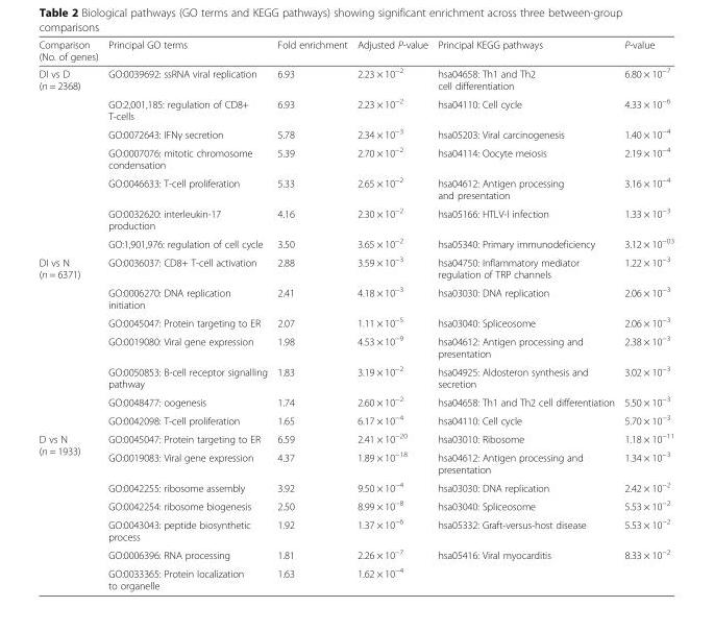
<table><thead><tr><td>Comparison (No. of genes)</td><td>Principal GO terms</td><td>Fold enrichment</td><td>Adjusted P-value</td><td>Principal KEGG pathways</td><td>P-value</td></tr></thead><tbody><tr><td rowspan="7">DI vs D (n = 2368)</td><td>GO:0039692: ssRNA viral replication</td><td>6.93</td><td>2.23 × 10<sup>−2</sup></td><td>hsa04658: Th1 and Th2 cell differentiation</td><td>6.80 × 10<sup>−7</sup></td></tr><tr><td>GO:2,001,185: regulation of CD8+ T-cells</td><td>6.93</td><td>2.23 × 10<sup>−2</sup></td><td>hsa04110: Cell cycle</td><td>4.33 × 10<sup>−6</sup></td></tr><tr><td>GO:0072643: IFNγ secretion</td><td>5.78</td><td>2.34 × 10<sup>−3</sup></td><td>hsa05203: Viral carcinogenesis</td><td>1.40 × 10<sup>−4</sup></td></tr><tr><td>GO:0007076: mitotic chromosome condensation</td><td>5.39</td><td>2.70 × 10<sup>−2</sup></td><td>hsa04114: Oocyte meiosis</td><td>2.19 × 10<sup>−4</sup></td></tr><tr><td>GO:0046633: T-cell proliferation</td><td>5.33</td><td>2.65 × 10<sup>−2</sup></td><td>hsa04612: Antigen processing and presentation</td><td>3.16 × 10<sup>−4</sup></td></tr><tr><td>GO:0032620: interleukin-17 production</td><td>4.16</td><td>2.30 × 10<sup>−2</sup></td><td>hsa05166: HTLV-I infection</td><td>1.33 × 10<sup>−3</sup></td></tr><tr><td>GO:1,901,976: regulation of cell cycle</td><td>3.50</td><td>3.65 × 10<sup>−2</sup></td><td>hsa05340: Primary immunodeficiency</td><td>3.12 × 10<sup>−03</sup></td></tr><tr><td rowspan="7">DI vs N (n = 6371)</td><td>GO:0036037: CD8+ T-cell activation</td><td>2.88</td><td>3.59 × 10<sup>−3</sup></td><td>hsa04750: Inflammatory mediator regulation of TRP channels</td><td>1.22 × 10<sup>−3</sup></td></tr><tr><td>GO:0006270: DNA replication initiation</td><td>2.41</td><td>4.18 × 10<sup>−3</sup></td><td>hsa03030: DNA replication</td><td>2.06 × 10<sup>−3</sup></td></tr><tr><td>GO:0045047: Protein targeting to ER</td><td>2.07</td><td>1.11 × 10<sup>−5</sup></td><td>hsa03040: Spliceosome</td><td>2.06 × 10<sup>−3</sup></td></tr><tr><td>GO:0019080: Viral gene expression</td><td>1.98</td><td>4.53 × 10<sup>−9</sup></td><td>hsa04612: Antigen processing and presentation</td><td>2.38 × 10<sup>−3</sup></td></tr><tr><td>GO:0050853: B-cell receptor signalling pathway</td><td>1.83</td><td>3.19 × 10<sup>−2</sup></td><td>hsa04925: Aldosteron synthesis and secretion</td><td>3.02 × 10<sup>−3</sup></td></tr><tr><td>GO:0048477: oogenesis</td><td>1.74</td><td>2.60 × 10<sup>−2</sup></td><td>hsa04658: Th1 and Th2 cell differentiation</td><td>5.50 × 10<sup>−3</sup></td></tr><tr><td>GO:0042098: T-cell proliferation</td><td>1.65</td><td>6.17 × 10<sup>−4</sup></td><td>hsa04110: Cell cycle</td><td>5.70 × 10<sup>−3</sup></td></tr><tr><td rowspan="7">D vs N (n = 1933)</td><td>GO:0045047: Protein targeting to ER</td><td>6.59</td><td>2.41 × 10<sup>−20</sup></td><td>hsa03010: Ribosome</td><td>1.18 × 10<sup>−11</sup></td></tr><tr><td>GO:0019083: Viral gene expression</td><td>4.37</td><td>1.89 × 10<sup>−18</sup></td><td>hsa04612: Antigen processing and presentation</td><td>1.34 × 10<sup>−3</sup></td></tr><tr><td>GO:0042255: ribosome assembly</td><td>3.92</td><td>9.50 × 10<sup>−4</sup></td><td>hsa03030: DNA replication</td><td>2.42 × 10<sup>−2</sup></td></tr><tr><td>GO:0042254: ribosome biogenesis</td><td>2.50</td><td>8.99 × 10<sup>−8</sup></td><td>hsa03040: Spliceosome</td><td>5.53 × 10<sup>−2</sup></td></tr><tr><td>GO:0043043: peptide biosynthetic process</td><td>1.92</td><td>1.37 × 10<sup>−6</sup></td><td>hsa05332: Graft-versus-host disease</td><td>5.53 × 10<sup>−2</sup></td></tr><tr><td>GO:0006396: RNA processing</td><td>1.81</td><td>2.26 × 10<sup>−7</sup></td><td>hsa05416: Viral myocarditis</td><td>8.33 × 10<sup>−2</sup></td></tr><tr><td>GO:0033365: Protein localization to organelle</td><td>1.63</td><td>1.62 × 10<sup>−4</sup></td><td></td><td></td></tr></tbody></table>